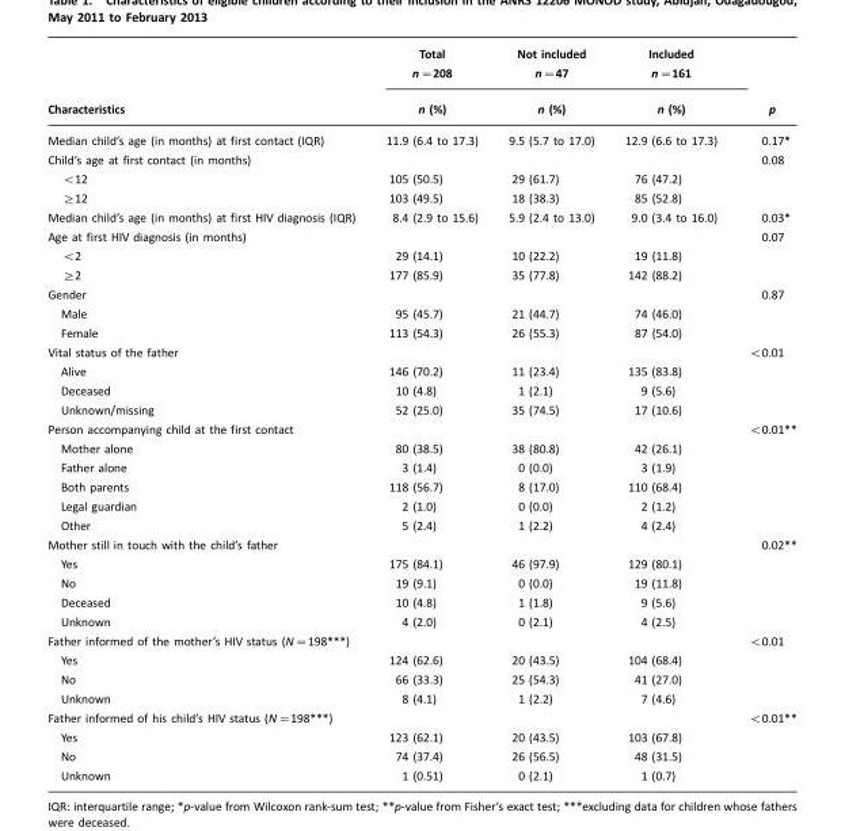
<table><thead><tr><td rowspan="2">Characteristics</td><td rowspan="2">Total n=208 n (%)</td><td rowspan="2">Not included n=47 n (%)</td><td rowspan="2">Included n=161 n (%)</td><td rowspan="2">p</td></tr><tr></tr></thead><tbody><tr><td>Median child’s age (in months) at first contact (IQR)</td><td>11.9 (6.4 to 17.3)</td><td>9.5 (5.7 to 17.0)</td><td>12.9 (6.6 to 17.3)</td><td>0.17*</td></tr><tr><td>Child’s age at first contact (in months)</td><td></td><td></td><td></td><td>0.08</td></tr><tr><td>&lt;12</td><td>105 (50.5)</td><td>29 (61.7)</td><td>76 (47.2)</td><td></td></tr><tr><td>≥12</td><td>103 (49.5)</td><td>18 (38.3)</td><td>85 (52.8)</td><td></td></tr><tr><td>Median child’s age (in months) at first HIV diagnosis (IQR)</td><td>8.4 (2.9 to 15.6)</td><td>5.9 (2.4 to 13.0)</td><td>9.0 (3.4 to 16.0)</td><td>0.03*</td></tr><tr><td>Age at first HIV diagnosis (in months)</td><td></td><td></td><td></td><td>0.07</td></tr><tr><td>&lt;2</td><td>29 (14.1)</td><td>10 (22.2)</td><td>19 (11.8)</td><td></td></tr><tr><td>≥2</td><td>177 (85.9)</td><td>35 (77.8)</td><td>142 (88.2)</td><td></td></tr><tr><td>Gender</td><td></td><td></td><td></td><td>0.87</td></tr><tr><td>Male</td><td>95 (45.7)</td><td>21 (44.7)</td><td>74 (46.0)</td><td></td></tr><tr><td>Female</td><td>113 (54.3)</td><td>26 (55.3)</td><td>87 (54.0)</td><td></td></tr><tr><td>Vital status of the father</td><td></td><td></td><td></td><td>&lt;0.01</td></tr><tr><td>Alive</td><td>146 (70.2)</td><td>11 (23.4)</td><td>135 (83.8)</td><td></td></tr><tr><td>Deceased</td><td>10 (4.8)</td><td>1 (2.1)</td><td>9 (5.6)</td><td></td></tr><tr><td>Unknown/missing</td><td>52 (25.0)</td><td>35 (74.5)</td><td>17 (10.6)</td><td></td></tr><tr><td>Person accompanying child at the first contact</td><td></td><td></td><td></td><td>&lt;0.01**</td></tr><tr><td>Mother alone</td><td>80 (38.5)</td><td>38 (80.8)</td><td>42 (26.1)</td><td></td></tr><tr><td>Father alone</td><td>3 (1.4)</td><td>0 (0.0)</td><td>3 (1.9)</td><td></td></tr><tr><td>Both parents</td><td>118 (56.7)</td><td>8 (17.0)</td><td>110 (68.4)</td><td></td></tr><tr><td>Legal guardian</td><td>2 (1.0)</td><td>0 (0.0)</td><td>2 (1.2)</td><td></td></tr><tr><td>Other</td><td>5 (2.4)</td><td>1 (2.2)</td><td>4 (2.4)</td><td></td></tr><tr><td>Mother still in touch with the child’s father</td><td></td><td></td><td></td><td>0.02**</td></tr><tr><td>Yes</td><td>175 (84.1)</td><td>46 (97.9)</td><td>129 (80.1)</td><td></td></tr><tr><td>No</td><td>19 (9.1)</td><td>0 (0.0)</td><td>19 (11.8)</td><td></td></tr><tr><td>Deceased</td><td>10 (4.8)</td><td>1 (1.8)</td><td>9 (5.6)</td><td></td></tr><tr><td>Unknown</td><td>4 (2.0)</td><td>0 (2.1)</td><td>4 (2.5)</td><td></td></tr><tr><td>Father informed of the mother’s HIV status (N=198***)</td><td></td><td></td><td></td><td>&lt;0.01</td></tr><tr><td>Yes</td><td>124 (62.6)</td><td>20 (43.5)</td><td>104 (68.4)</td><td></td></tr><tr><td>No</td><td>66 (33.3)</td><td>25 (54.3)</td><td>41 (27.0)</td><td></td></tr><tr><td>Unknown</td><td>8 (4.1)</td><td>1 (2.2)</td><td>7 (4.6)</td><td></td></tr><tr><td>Father informed of his child’s HIV status (N=198***)</td><td></td><td></td><td></td><td>&lt;0.01**</td></tr><tr><td>Yes</td><td>123 (62.1)</td><td>20 (43.5)</td><td>103 (67.8)</td><td></td></tr><tr><td>No</td><td>74 (37.4)</td><td>26 (56.5)</td><td>48 (31.5)</td><td></td></tr><tr><td>Unknown</td><td>1 (0.51)</td><td>0 (2.1)</td><td>1 (0.7)</td><td></td></tr></tbody></table>